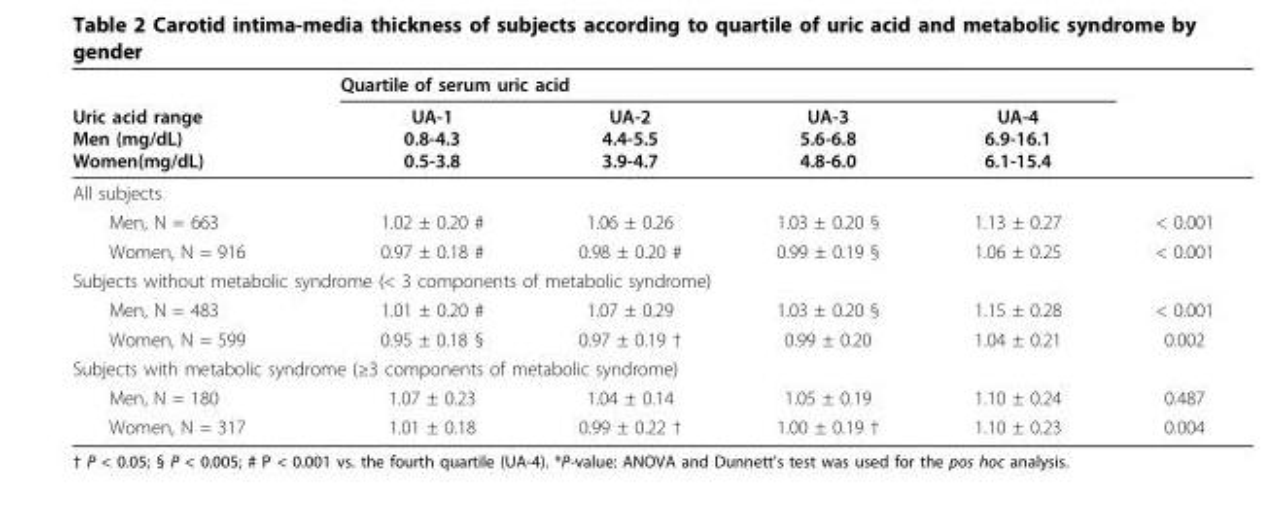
<table><thead><tr><td rowspan="2">Uric acid range Men (mg/dL) Women(mg/dL)</td><td colspan="4">Quartile of serum uric acid</td><td rowspan="2"></td></tr><tr><td>UA-1 0.8-4.3 0.5-3.8</td><td>UA-2 4.4-5.5 3.9-4.7</td><td>UA-3 5.6-6.8 4.8-6.0</td><td>UA-4 6.9-16.1 6.1-15.4</td></tr></thead><tbody><tr><td colspan="6">All subjects</td></tr><tr><td>Men, N = 663</td><td>1.02 ± 0.20 #</td><td>1.06 ± 0.26</td><td>1.03 ± 0.20 §</td><td>1.13 ± 0.27</td><td>&lt; 0.001</td></tr><tr><td>Women, N = 916</td><td>0.97 ± 0.18 #</td><td>0.98 ± 0.20 #</td><td>0.99 ± 0.19 §</td><td>1.06 ± 0.25</td><td>&lt; 0.001</td></tr><tr><td colspan="6">Subjects without metabolic syndrome (&lt; 3 components of metabolic syndrome)</td></tr><tr><td>Men, N = 483</td><td>1.01 ± 0.20 #</td><td>1.07 ± 0.29</td><td>1.03 ± 0.20 §</td><td>1.15 ± 0.28</td><td>&lt; 0.001</td></tr><tr><td>Women, N = 599</td><td>0.95 ± 0.18 §</td><td>0.97 ± 0.19 †</td><td>0.99 ± 0.20</td><td>1.04 ± 0.21</td><td>0.002</td></tr><tr><td colspan="6">Subjects with metabolic syndrome (≥3 components of metabolic syndrome)</td></tr><tr><td>Men, N = 180</td><td>1.07 ± 0.23</td><td>1.04 ± 0.14</td><td>1.05 ± 0.19</td><td>1.10 ± 0.24</td><td>0.487</td></tr><tr><td>Women, N = 317</td><td>1.01 ± 0.18</td><td>0.99 ± 0.22 †</td><td>1.00 ± 0.19 †</td><td>1.10 ± 0.23</td><td>0.004</td></tr></tbody></table>